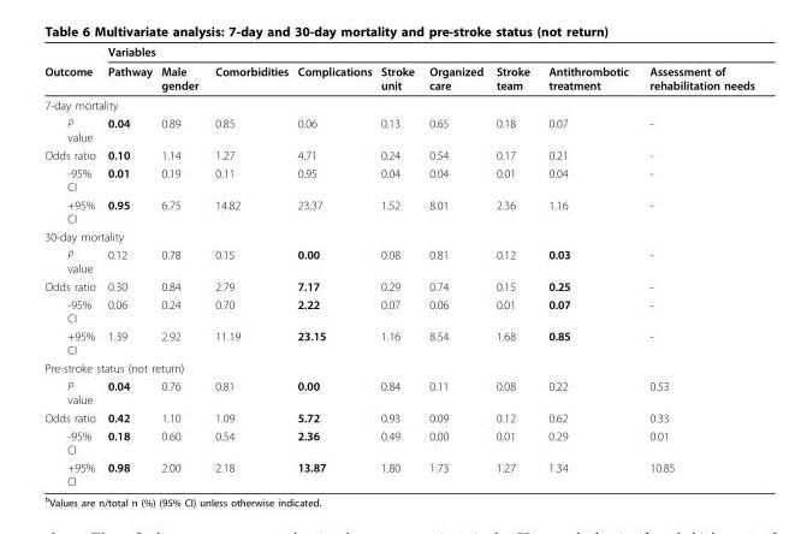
<table><thead><tr><td rowspan="2">Outcome</td><td colspan="9">Variables</td></tr><tr><td>Pathway</td><td>Male gender</td><td>Comorbidities</td><td>Complications</td><td>Stroke unit</td><td>Organized care</td><td>Stroke team</td><td>Antithrombotic treatment</td><td>Assessment of rehabilitation needs</td></tr></thead><tbody><tr><td colspan="10">7-day mortality</td></tr><tr><td>P value</td><td>0.04</td><td>0.89</td><td>0.85</td><td>0.06</td><td>0.13</td><td>0.65</td><td>0.18</td><td>0.07</td><td>-</td></tr><tr><td>Odds ratio</td><td>0.10</td><td>1.14</td><td>1.27</td><td>4.71</td><td>0.24</td><td>0.54</td><td>0.17</td><td>0.21</td><td>-</td></tr><tr><td>-95% CI</td><td>0.01</td><td>0.19</td><td>0.11</td><td>0.95</td><td>0.04</td><td>0.04</td><td>0.01</td><td>0.04</td><td>-</td></tr><tr><td>+95% CI</td><td>0.95</td><td>6.75</td><td>14.82</td><td>23.37</td><td>1.52</td><td>8.01</td><td>2.36</td><td>1.16</td><td>-</td></tr><tr><td colspan="10">30-day mortality</td></tr><tr><td>P value</td><td>0.12</td><td>0.78</td><td>0.15</td><td>0.00</td><td>0.08</td><td>0.81</td><td>0.12</td><td>0.03</td><td>-</td></tr><tr><td>Odds ratio</td><td>0.30</td><td>0.84</td><td>2.79</td><td>7.17</td><td>0.29</td><td>0.74</td><td>0.15</td><td>0.25</td><td>-</td></tr><tr><td>-95% CI</td><td>0.06</td><td>0.24</td><td>0.70</td><td>2.22</td><td>0.07</td><td>0.06</td><td>0.01</td><td>0.07</td><td>-</td></tr><tr><td>+95% CI</td><td>1.39</td><td>2.92</td><td>11.19</td><td>23.15</td><td>1.16</td><td>8.54</td><td>1.68</td><td>0.85</td><td>-</td></tr><tr><td colspan="10">Pre-stroke status (not return)</td></tr><tr><td>P value</td><td>0.04</td><td>0.76</td><td>0.81</td><td>0.00</td><td>0.84</td><td>0.11</td><td>0.08</td><td>0.22</td><td>0.53</td></tr><tr><td>Odds ratio</td><td>0.42</td><td>1.10</td><td>1.09</td><td>5.72</td><td>0.93</td><td>0.09</td><td>0.12</td><td>0.62</td><td>0.33</td></tr><tr><td>-95% CI</td><td>0.18</td><td>0.60</td><td>0.54</td><td>2.36</td><td>0.49</td><td>0.00</td><td>0.01</td><td>0.29</td><td>0.01</td></tr><tr><td>+95% CI</td><td>0.98</td><td>2.00</td><td>2.18</td><td>13.87</td><td>1.80</td><td>1.73</td><td>1.27</td><td>1.34</td><td>10.85</td></tr></tbody></table>